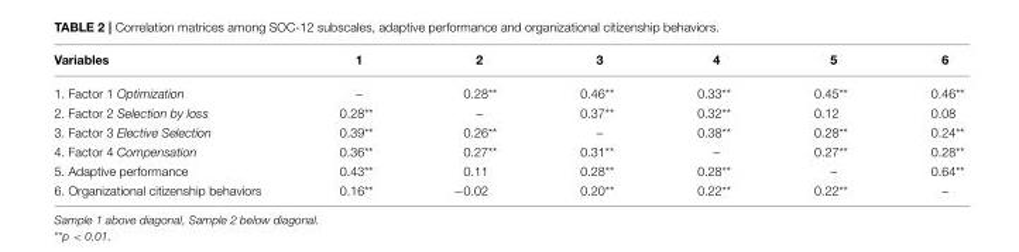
<table><thead><tr><td>Variables</td><td>1</td><td>2</td><td>3</td><td>4</td><td>5</td><td>6</td></tr></thead><tbody><tr><td>1. Factor 1 Optimization</td><td>–</td><td>0.28**</td><td>0.46**</td><td>0.33**</td><td>0.45**</td><td>0.46**</td></tr><tr><td>2. Factor 2 Selection by loss</td><td>0.28**</td><td>–</td><td>0.37**</td><td>0.32**</td><td>0.12</td><td>0.08</td></tr><tr><td>3. Factor 3 Elective Selection</td><td>0.39**</td><td>0.26**</td><td>–</td><td>0.38**</td><td>0.28**</td><td>0.24**</td></tr><tr><td>4. Factor 4 Compensation</td><td>0.36**</td><td>0.27**</td><td>0.31**</td><td>–</td><td>0.27**</td><td>0.28**</td></tr><tr><td>5. Adaptive performance</td><td>0.43**</td><td>0.11</td><td>0.28**</td><td>0.28**</td><td>–</td><td>0.64**</td></tr><tr><td>6. Organizational citizenship behaviors</td><td>0.16**</td><td>−0.02</td><td>0.20**</td><td>0.22**</td><td>0.22**</td><td>–</td></tr></tbody></table>